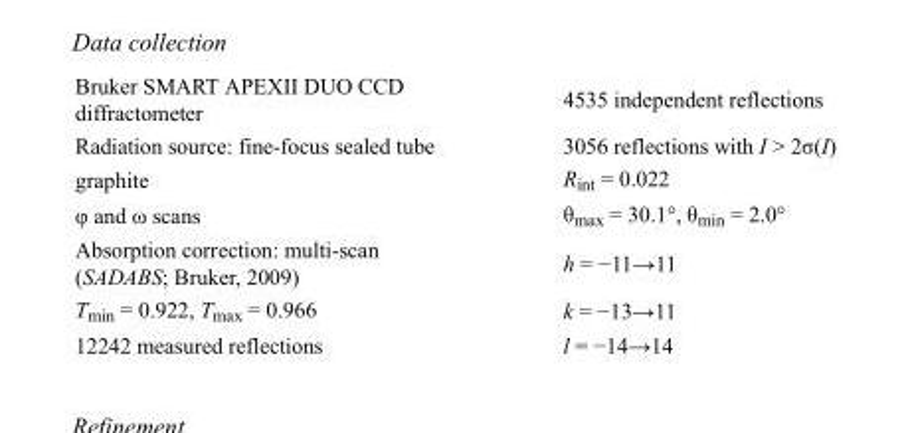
<table><tbody><tr><td>Bruker SMART APEXII DUO CCD diffractometer</td><td>4535 independent reflections</td></tr><tr><td>Radiation source: fine-focus sealed tube</td><td>3056 reflections with I &gt; 2σ(I)</td></tr><tr><td>graphite</td><td>R<sub>int</sub> = 0.022</td></tr><tr><td>φ and ω scans</td><td>θ<sub>max</sub> = 30.1°, θ<sub>min</sub> = 2.0°</td></tr><tr><td>Absorption correction: multi-scan (SADABS; Bruker, 2009)</td><td>h = −11→11</td></tr><tr><td>T<sub>min</sub> = 0.922, T<sub>max</sub> = 0.966</td><td>k = −13→11</td></tr><tr><td>12242 measured reflections</td><td>l = −14→14</td></tr></tbody></table>